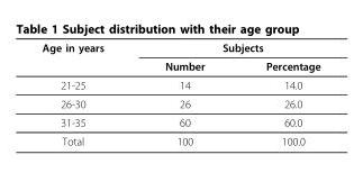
<table><thead><tr><td rowspan="2">Age in years</td><td colspan="2">Subjects</td></tr><tr><td>Number</td><td>Percentage</td></tr></thead><tbody><tr><td>21-25</td><td>14</td><td>14.0</td></tr><tr><td>26-30</td><td>26</td><td>26.0</td></tr><tr><td>31-35</td><td>60</td><td>60.0</td></tr><tr><td>Total</td><td>100</td><td>100.0</td></tr></tbody></table>